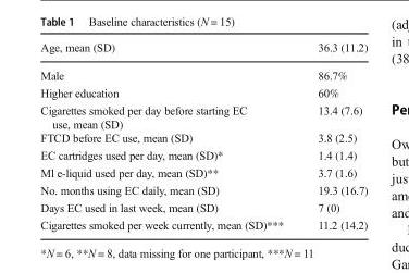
<table><thead><tr><td>Age, mean (SD)</td><td>36.3 (11.2)</td></tr></thead><tbody><tr><td>Male</td><td>86.7%</td></tr><tr><td>Higher education</td><td>60%</td></tr><tr><td>Cigarettes smoked per day before starting EC use, mean (SD)</td><td>13.4 (7.6)</td></tr><tr><td>FTCD before EC use, mean (SD)</td><td>3.8 (2.5)</td></tr><tr><td>EC cartridges used per day, mean (SD)*</td><td>1.4 (1.4)</td></tr><tr><td>Ml e-liquid used per day, mean (SD)**</td><td>3.7 (1.6)</td></tr><tr><td>No. months using EC daily, mean (SD)</td><td>19.3 (16.7)</td></tr><tr><td>Days EC used in last week, mean (SD)</td><td>7 (0)</td></tr><tr><td>Cigarettes smoked per week currently, mean (SD)***</td><td>11.2 (14.2)</td></tr></tbody></table>